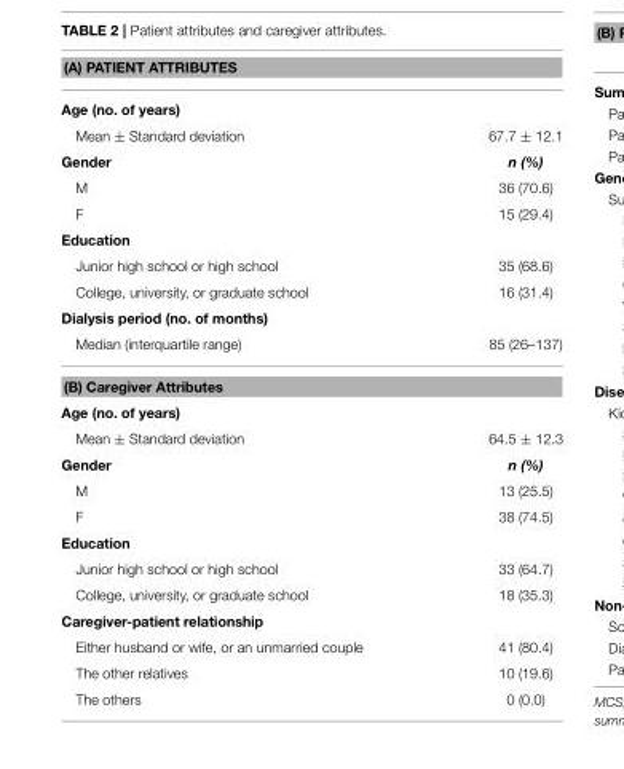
<table><thead><tr><td rowspan="2" colspan="2">(A) PATIENT ATTRIBUTES Age (no. of years)</td></tr><tr></tr><tr><td>Mean ± Standard deviation</td><td>67.7 ± 12.1</td></tr></thead><tbody><tr><td>Gender</td><td>n (%)</td></tr><tr><td>M</td><td>36 (70.6)</td></tr><tr><td>F</td><td>15 (29.4)</td></tr><tr><td colspan="2">Education</td></tr><tr><td>Junior high school or high school</td><td>35 (68.6)</td></tr><tr><td>College, university, or graduate school</td><td>16 (31.4)</td></tr><tr><td colspan="2">Dialysis period (no. of months)</td></tr><tr><td>Median (interquartile range)</td><td>85 (26–137)</td></tr><tr><td colspan="2">(B) Caregiver Attributes</td></tr><tr><td colspan="2">Age (no. of years)</td></tr><tr><td>Mean ± Standard deviation</td><td>64.5 ± 12.3</td></tr><tr><td>Gender</td><td>n (%)</td></tr><tr><td>M</td><td>13 (25.5)</td></tr><tr><td>F</td><td>38 (74.5)</td></tr><tr><td colspan="2">Education</td></tr><tr><td>Junior high school or high school</td><td>33 (64.7)</td></tr><tr><td>College, university, or graduate school</td><td>18 (35.3)</td></tr><tr><td colspan="2">Caregiver-patient relationship</td></tr><tr><td>Either husband or wife, or an unmarried couple</td><td>41 (80.4)</td></tr><tr><td>The other relatives</td><td>10 (19.6)</td></tr><tr><td>The others</td><td>0 (0.0)</td></tr></tbody></table>